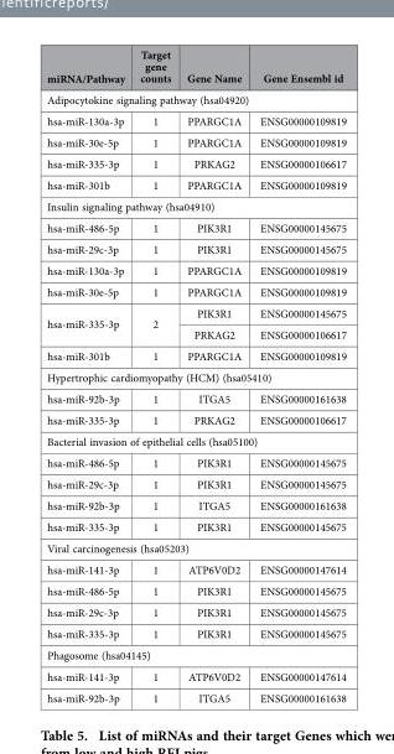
<table><thead><tr><td>miRNA/Pathway</td><td>Target gene counts</td><td>Gene Name</td><td>Gene Ensembl id</td></tr></thead><tbody><tr><td colspan="4">Adipocytokine signaling pathway (hsa04920)</td></tr><tr><td>hsa-miR-130a-3p</td><td>1</td><td>PPARGC1A</td><td>ENSG00000109819</td></tr><tr><td>hsa-miR-30e-5p</td><td>1</td><td>PPARGC1A</td><td>ENSG00000109819</td></tr><tr><td>hsa-miR-335-3p</td><td>1</td><td>PRKAG2</td><td>ENSG00000106617</td></tr><tr><td>hsa-miR-301b</td><td>1</td><td>PPARGC1A</td><td>ENSG00000109819</td></tr><tr><td colspan="4">Insulin signaling pathway (hsa04910)</td></tr><tr><td>hsa-miR-486-5p</td><td>1</td><td>PIK3R1</td><td>ENSG00000145675</td></tr><tr><td>hsa-miR-29c-3p</td><td>1</td><td>PIK3R1</td><td>ENSG00000145675</td></tr><tr><td>hsa-miR-130a-3p</td><td>1</td><td>PPARGC1A</td><td>ENSG00000109819</td></tr><tr><td>hsa-miR-30e-5p</td><td>1</td><td>PPARGC1A</td><td>ENSG00000109819</td></tr><tr><td rowspan="2">hsa-miR-335-3p</td><td rowspan="2">2</td><td>PIK3R1</td><td>ENSG00000145675</td></tr><tr><td>PRKAG2</td><td>ENSG00000106617</td></tr><tr><td>hsa-miR-301b</td><td>1</td><td>PPARGC1A</td><td>ENSG00000109819</td></tr><tr><td colspan="4">Hypertrophic cardiomyopathy (HCM) (hsa05410)</td></tr><tr><td>hsa-miR-92b-3p</td><td>1</td><td>ITGA5</td><td>ENSG00000161638</td></tr><tr><td>hsa-miR-335-3p</td><td>1</td><td>PRKAG2</td><td>ENSG00000106617</td></tr><tr><td colspan="4">Bacterial invasion of epithelial cells (hsa05100)</td></tr><tr><td>hsa-miR-486-5p</td><td>1</td><td>PIK3R1</td><td>ENSG00000145675</td></tr><tr><td>hsa-miR-29c-3p</td><td>1</td><td>PIK3R1</td><td>ENSG00000145675</td></tr><tr><td>hsa-miR-92b-3p</td><td>1</td><td>ITGA5</td><td>ENSG00000161638</td></tr><tr><td>hsa-miR-335-3p</td><td>1</td><td>PIK3R1</td><td>ENSG00000145675</td></tr><tr><td colspan="4">Viral carcinogenesis (hsa05203)</td></tr><tr><td>hsa-miR-141-3p</td><td>1</td><td>ATP6V0D2</td><td>ENSG00000147614</td></tr><tr><td>hsa-miR-486-5p</td><td>1</td><td>PIK3R1</td><td>ENSG00000145675</td></tr><tr><td>hsa-miR-29c-3p</td><td>1</td><td>PIK3R1</td><td>ENSG00000145675</td></tr><tr><td>hsa-miR-335-3p</td><td>1</td><td>PIK3R1</td><td>ENSG00000145675</td></tr><tr><td colspan="4">Phagosome (hsa04145)</td></tr><tr><td>hsa-miR-141-3p</td><td>1</td><td>ATP6V0D2</td><td>ENSG00000147614</td></tr><tr><td>hsa-miR-92b-3p</td><td>1</td><td>ITGA5</td><td>ENSG00000161638</td></tr></tbody></table>